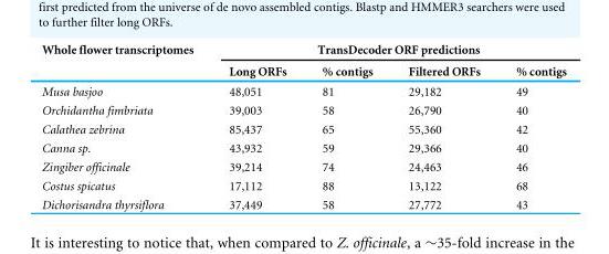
<table><thead><tr><td rowspan="2">Whole flower transcriptomes</td><td colspan="4">TransDecoder ORF predictions</td></tr><tr><td>Long ORFs</td><td>% contigs</td><td>Filtered ORFs</td><td>% contigs</td></tr></thead><tbody><tr><td>Musa basjoo</td><td>48,051</td><td>81</td><td>29,182</td><td>49</td></tr><tr><td>Orchidantha fimbriata</td><td>39,003</td><td>58</td><td>26,790</td><td>40</td></tr><tr><td>Calathea zebrina</td><td>85,437</td><td>65</td><td>55,360</td><td>42</td></tr><tr><td>Canna sp.</td><td>43,932</td><td>59</td><td>29,366</td><td>40</td></tr><tr><td>Zingiber officinale</td><td>39,214</td><td>74</td><td>24,463</td><td>46</td></tr><tr><td>Costus spicatus</td><td>17,112</td><td>88</td><td>13,122</td><td>68</td></tr><tr><td>Dichorisandra thyrsiflora</td><td>37,449</td><td>58</td><td>27,772</td><td>43</td></tr></tbody></table>